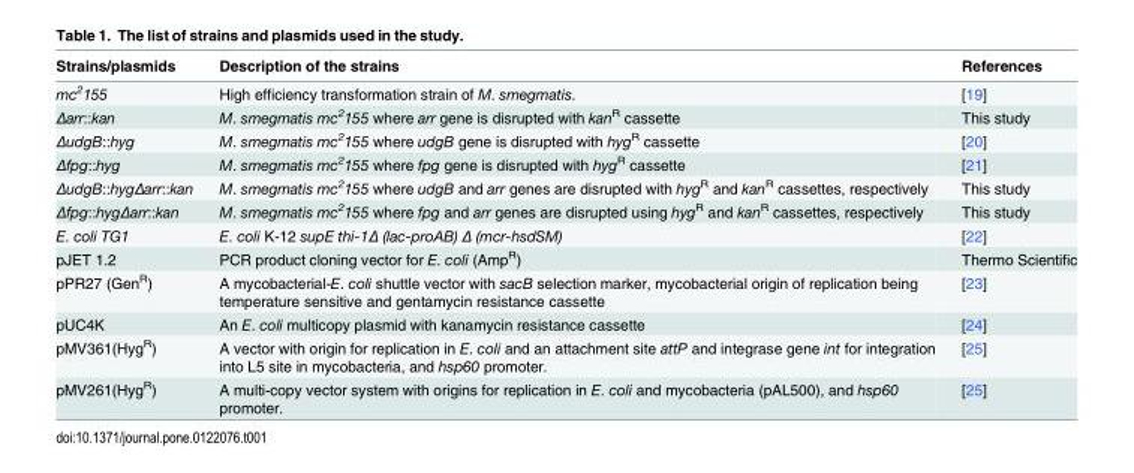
<table><thead><tr><td>Strains/plasmids</td><td>Description of the strains</td><td>References</td></tr></thead><tbody><tr><td>mc<sup>2</sup>155</td><td>High efficiency transformation strain of M. smegmatis.</td><td>[19]</td></tr><tr><td>Δarr::kan</td><td>M. smegmatis mc<sup>2</sup>155 where arr gene is disrupted with kan<sup>R</sup> cassette</td><td>This study</td></tr><tr><td>ΔudgB::hyg</td><td>M. smegmatis mc<sup>2</sup>155 where udgB gene is disrupted with hyg<sup>R</sup> cassette</td><td>[20]</td></tr><tr><td>Δfpg::hyg</td><td>M. smegmatis mc<sup>2</sup>155 where fpg gene is disrupted with hyg<sup>R</sup> cassette</td><td>[21]</td></tr><tr><td>ΔudgB::hygΔarr::kan</td><td>M. smegmatis mc<sup>2</sup>155 where udgB and arr genes are disrupted with hyg<sup>R</sup> and kan<sup>R</sup> cassettes, respectively</td><td>This study</td></tr><tr><td>Δfpg::hygΔarr::kan</td><td>M. smegmatis mc<sup>2</sup>155 where fpg and arr genes are disrupted using hyg<sup>R</sup> and kan<sup>R</sup> cassettes, respectively</td><td>This study</td></tr><tr><td>E. coli TG1</td><td>E. coli K-12 supE thi-1Δ (lac-proAB) Δ (mcr-hsdSM)</td><td>[22]</td></tr><tr><td>pJET 1.2</td><td>PCR product cloning vector for E. coli (Amp<sup>R</sup>)</td><td>Thermo Scientific</td></tr><tr><td>pPR27 (Gen<sup>R</sup>)</td><td>A mycobacterial-E. coli shuttle vector with sacB selection marker, mycobacterial origin of replication being temperature sensitive and gentamycin resistance cassette</td><td>[23]</td></tr><tr><td>pUC4K</td><td>An E. coli multicopy plasmid with kanamycin resistance cassette</td><td>[24]</td></tr><tr><td>pMV361(Hyg<sup>R</sup>)</td><td>A vector with origin for replication in E. coli and an attachment site attP and integrase gene int for integration into L5 site in mycobacteria, and hsp60 promoter.</td><td>[25]</td></tr><tr><td>pMV261(Hyg<sup>R</sup>)</td><td>A multi-copy vector system with origins for replication in E. coli and mycobacteria (pAL500), and hsp60 promoter.</td><td>[25]</td></tr></tbody></table>